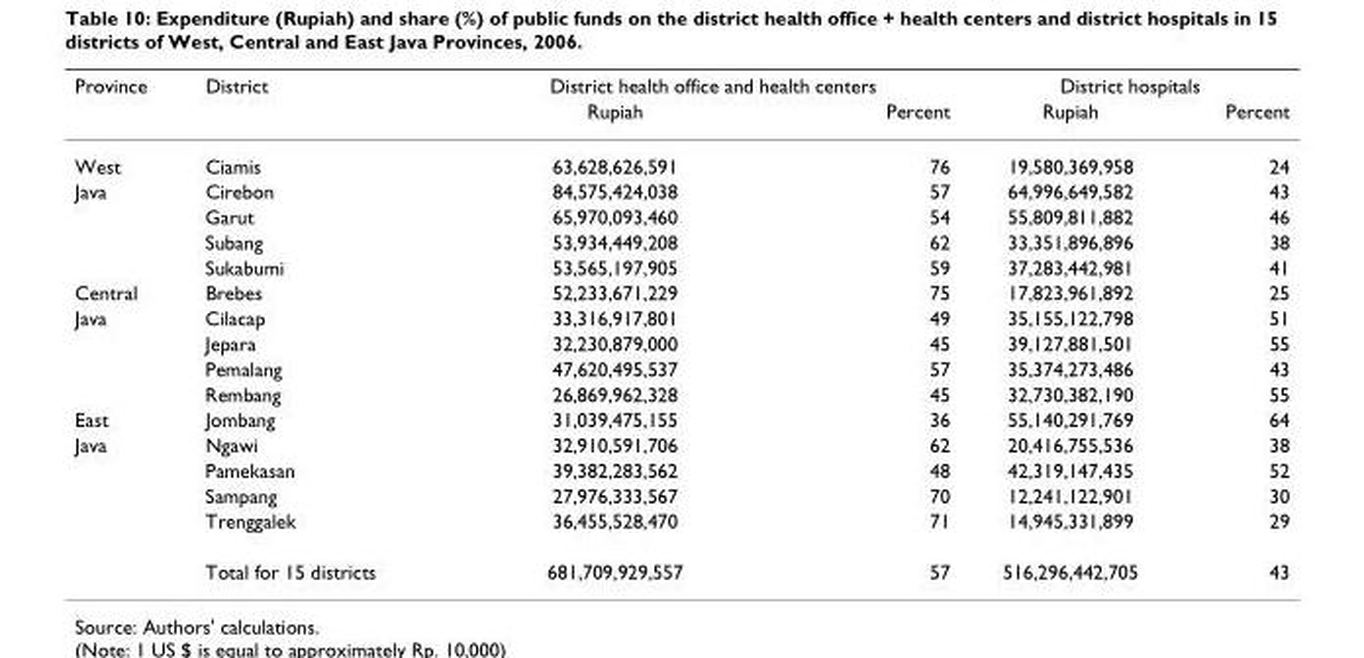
<table><thead><tr><td rowspan="2">Province</td><td rowspan="2">District</td><td colspan="2">District health office and health centers</td><td colspan="2">District hospitals</td></tr><tr><td>Rupiah</td><td>Percent</td><td>Rupiah</td><td>Percent</td></tr></thead><tbody><tr><td>West</td><td>Ciamis</td><td>63,628,626,591</td><td>76</td><td>19,580,369,958</td><td>24</td></tr><tr><td rowspan="4">Java</td><td>Cirebon</td><td>84,575,424,038</td><td>57</td><td>64,996,649,582</td><td>43</td></tr><tr><td>Garut</td><td>65,970,093,460</td><td>54</td><td>55,809,811,882</td><td>46</td></tr><tr><td>Subang</td><td>53,934,449,208</td><td>62</td><td>33,351,896,896</td><td>38</td></tr><tr><td>Sukabumi</td><td>53,565,197,905</td><td>59</td><td>37,283,442,981</td><td>41</td></tr><tr><td>Central</td><td>Brebes</td><td>52,233,671,229</td><td>75</td><td>17,823,961,892</td><td>25</td></tr><tr><td rowspan="4">Java</td><td>Cilacap</td><td>33,316,917,801</td><td>49</td><td>35,155,122,798</td><td>51</td></tr><tr><td>Jepara</td><td>32,230,879,000</td><td>45</td><td>39,127,881,501</td><td>55</td></tr><tr><td>Pemalang</td><td>47,620,495,537</td><td>57</td><td>35,374,273,486</td><td>43</td></tr><tr><td>Rembang</td><td>26,869,962,328</td><td>45</td><td>32,730,382,190</td><td>55</td></tr><tr><td>East</td><td>Jombang</td><td>31,039,475,155</td><td>36</td><td>55,140,291,769</td><td>64</td></tr><tr><td rowspan="5">Java</td><td>Ngawi</td><td>32,910,591,706</td><td>62</td><td>20,416,755,536</td><td>38</td></tr><tr><td>Pamekasan</td><td>39,382,283,562</td><td>48</td><td>42,319,147,435</td><td>52</td></tr><tr><td>Sampang</td><td>27,976,333,567</td><td>70</td><td>12,241,122,901</td><td>30</td></tr><tr><td>Trenggalek</td><td>36,455,528,470</td><td>71</td><td>14,945,331,899</td><td>29</td></tr><tr><td>Total for 15 districts</td><td>681,709,929,557</td><td>57</td><td>516,296,442,705</td><td>43</td></tr></tbody></table>